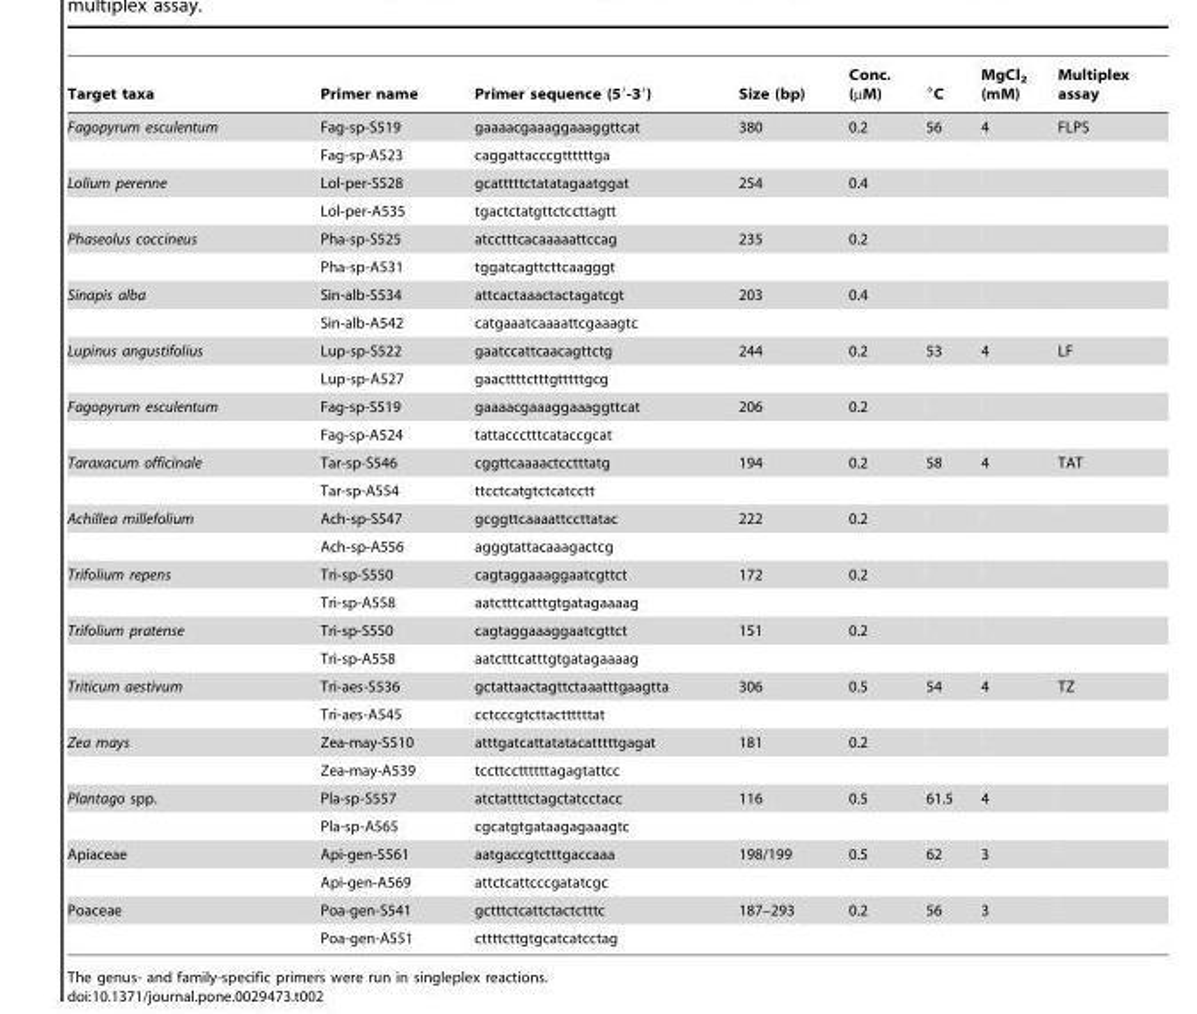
<table><thead><tr><td>Target taxa</td><td>Primer name</td><td>Primer sequence (5′-3′)</td><td>Size (bp)</td><td>Conc. (µM)</td><td>°C</td><td>MgCl<sub>2</sub> (mM)</td><td>Multiplex assay</td></tr></thead><tbody><tr><td rowspan="2">Fagopyrum esculentum</td><td>Fag-sp-S519</td><td>gaaaacgaaaggaaaggttcat</td><td>380</td><td>0.2</td><td>56</td><td>4</td><td>FLPS</td></tr><tr><td>Fag-sp-A523</td><td>caggattacccgttttttga</td><td></td><td></td><td></td><td></td><td></td></tr><tr><td rowspan="2">Lolium perenne</td><td>Lol-per-S528</td><td>gcatttttctatatagaatggat</td><td>254</td><td>0.4</td><td></td><td></td><td></td></tr><tr><td>Lol-per-A535</td><td>tgactctatgttctccttagtt</td><td></td><td></td><td></td><td></td><td></td></tr><tr><td rowspan="2">Phaseolus coccineus</td><td>Pha-sp-S525</td><td>atcctttcacaaaaattccag</td><td>235</td><td>0.2</td><td></td><td></td><td></td></tr><tr><td>Pha-sp-A531</td><td>tggatcagttcttcaagggt</td><td></td><td></td><td></td><td></td><td></td></tr><tr><td rowspan="2">Sinapis alba</td><td>Sin-alb-S534</td><td>attcactaaactactagatcgt</td><td>203</td><td>0.4</td><td></td><td></td><td></td></tr><tr><td>Sin-alb-A542</td><td>catgaaatcaaaattcgaaagtc</td><td></td><td></td><td></td><td></td><td></td></tr><tr><td rowspan="2">Lupinus angustifolius</td><td>Lup-sp-S522</td><td>gaatccattcaacagttctg</td><td>244</td><td>0.2</td><td>53</td><td>4</td><td>LF</td></tr><tr><td>Lup-sp-A527</td><td>gaacttttctttgtttttgcg</td><td></td><td></td><td></td><td></td><td></td></tr><tr><td rowspan="2">Fagopyrum esculentum</td><td>Fag-sp-S519</td><td>gaaaacgaaaggaaaggttcat</td><td>206</td><td>0.2</td><td></td><td></td><td></td></tr><tr><td>Fag-sp-A524</td><td>tattaccctttcataccgcat</td><td></td><td></td><td></td><td></td><td></td></tr><tr><td rowspan="2">Taraxacum officinale</td><td>Tar-sp-S546</td><td>cggttcaaaactcctttatg</td><td>194</td><td>0.2</td><td>58</td><td>4</td><td>TAT</td></tr><tr><td>Tar-sp-A554</td><td>ttcctcatgtctcatcctt</td><td></td><td></td><td></td><td></td><td></td></tr><tr><td rowspan="2">Achillea millefolium</td><td>Ach-sp-S547</td><td>gcggttcaaaattccttatac</td><td>222</td><td>0.2</td><td></td><td></td><td></td></tr><tr><td>Ach-sp-A556</td><td>agggtattacaaagactcg</td><td></td><td></td><td></td><td></td><td></td></tr><tr><td rowspan="2">Trifolium repens</td><td>Tri-sp-S550</td><td>cagtaggaaaggaatcgttct</td><td>172</td><td>0.2</td><td></td><td></td><td></td></tr><tr><td>Tri-sp-A558</td><td>aatctttcatttgtgatagaaaag</td><td></td><td></td><td></td><td></td><td></td></tr><tr><td rowspan="2">Trifolium pratense</td><td>Tri-sp-S550</td><td>cagtaggaaaggaatcgttct</td><td>151</td><td>0.2</td><td></td><td></td><td></td></tr><tr><td>Tri-sp-A558</td><td>aatctttcatttgtgatagaaaag</td><td></td><td></td><td></td><td></td><td></td></tr><tr><td rowspan="2">Triticum aestivum</td><td>Tri-aes-S536</td><td>gctattaactagttctaaatttgaagtta</td><td>306</td><td>0.5</td><td>54</td><td>4</td><td>TZ</td></tr><tr><td>Tri-aes-A545</td><td>cctcccgtcttacttttttat</td><td></td><td></td><td></td><td></td><td></td></tr><tr><td rowspan="2">Zea mays</td><td>Zea-may-S510</td><td>atttgatcattatatacatttttgagat</td><td>181</td><td>0.2</td><td></td><td></td><td></td></tr><tr><td>Zea-may-A539</td><td>tccttccttttttagagtattcc</td><td></td><td></td><td></td><td></td><td></td></tr><tr><td rowspan="2">Plantago spp.</td><td>Pla-sp-S557</td><td>atctattttctagctatcctacc</td><td>116</td><td>0.5</td><td>61.5</td><td>4</td><td></td></tr><tr><td>Pla-sp-A565</td><td>cgcatgtgataagagaaagtc</td><td></td><td></td><td></td><td></td><td></td></tr><tr><td rowspan="2">Apiaceae</td><td>Api-gen-S561</td><td>aatgaccgtctttgaccaaa</td><td>198/199</td><td>0.5</td><td>62</td><td>3</td><td></td></tr><tr><td>Api-gen-A569</td><td>attctcattcccgatatcgc</td><td></td><td></td><td></td><td></td><td></td></tr><tr><td rowspan="2">Poaceae</td><td>Poa-gen-S541</td><td>gctttctcattctactctttc</td><td>187–293</td><td>0.2</td><td>56</td><td>3</td><td></td></tr><tr><td>Poa-gen-A551</td><td>cttttcttgtgcatcatcctag</td><td></td><td></td><td></td><td></td><td></td></tr></tbody></table>